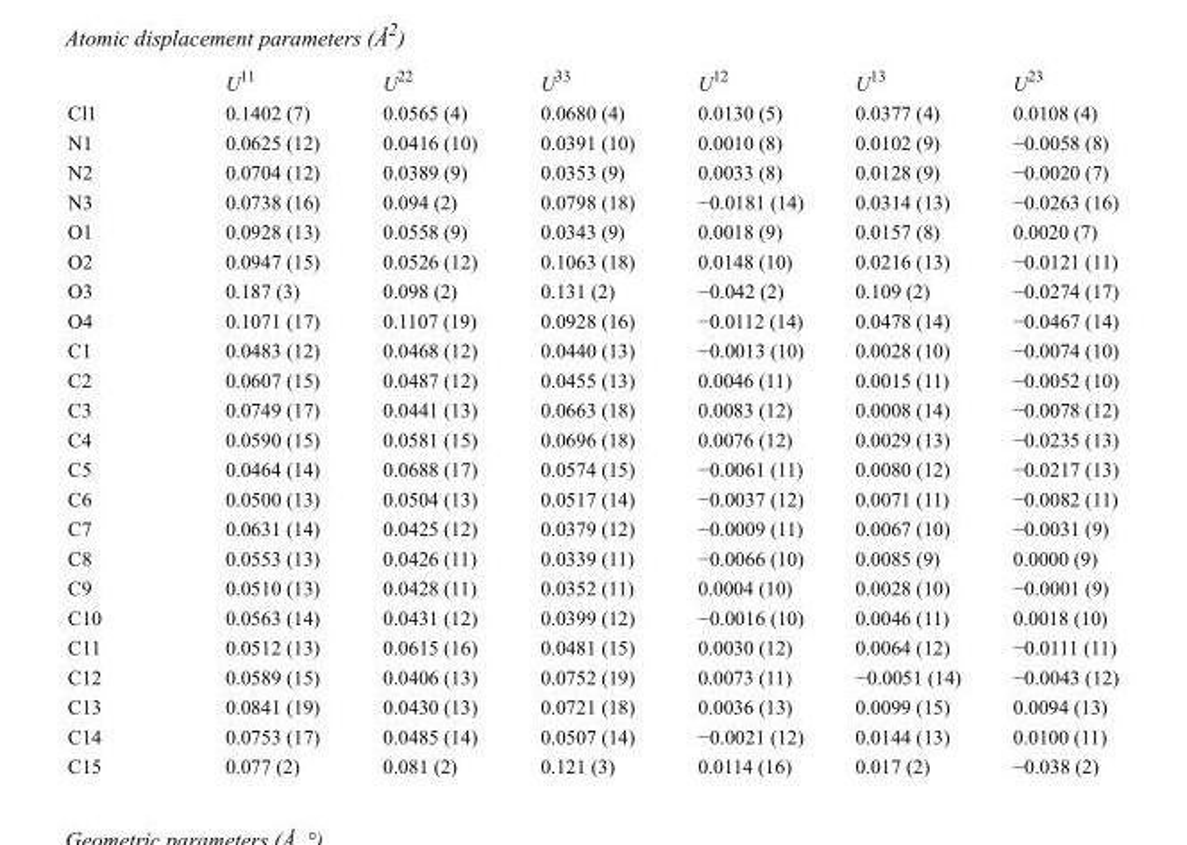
<table><thead><tr><td></td><td>U<sup>11</sup></td><td>U<sup>22</sup></td><td>U<sup>33</sup></td><td>U<sup>12</sup></td><td>U<sup>13</sup></td><td>U<sup>23</sup></td></tr></thead><tbody><tr><td>Cl1</td><td>0.1402 (7)</td><td>0.0565 (4)</td><td>0.0680 (4)</td><td>0.0130 (5)</td><td>0.0377 (4)</td><td>0.0108 (4)</td></tr><tr><td>N1</td><td>0.0625 (12)</td><td>0.0416 (10)</td><td>0.0391 (10)</td><td>0.0010 (8)</td><td>0.0102 (9)</td><td>−0.0058 (8)</td></tr><tr><td>N2</td><td>0.0704 (12)</td><td>0.0389 (9)</td><td>0.0353 (9)</td><td>0.0033 (8)</td><td>0.0128 (9)</td><td>−0.0020 (7)</td></tr><tr><td>N3</td><td>0.0738 (16)</td><td>0.094 (2)</td><td>0.0798 (18)</td><td>−0.0181 (14)</td><td>0.0314 (13)</td><td>−0.0263 (16)</td></tr><tr><td>O1</td><td>0.0928 (13)</td><td>0.0558 (9)</td><td>0.0343 (9)</td><td>0.0018 (9)</td><td>0.0157 (8)</td><td>0.0020 (7)</td></tr><tr><td>O2</td><td>0.0947 (15)</td><td>0.0526 (12)</td><td>0.1063 (18)</td><td>0.0148 (10)</td><td>0.0216 (13)</td><td>−0.0121 (11)</td></tr><tr><td>O3</td><td>0.187 (3)</td><td>0.098 (2)</td><td>0.131 (2)</td><td>−0.042 (2)</td><td>0.109 (2)</td><td>−0.0274 (17)</td></tr><tr><td>O4</td><td>0.1071 (17)</td><td>0.1107 (19)</td><td>0.0928 (16)</td><td>−0.0112 (14)</td><td>0.0478 (14)</td><td>−0.0467 (14)</td></tr><tr><td>C1</td><td>0.0483 (12)</td><td>0.0468 (12)</td><td>0.0440 (13)</td><td>−0.0013 (10)</td><td>0.0028 (10)</td><td>−0.0074 (10)</td></tr><tr><td>C2</td><td>0.0607 (15)</td><td>0.0487 (12)</td><td>0.0455 (13)</td><td>0.0046 (11)</td><td>0.0015 (11)</td><td>−0.0052 (10)</td></tr><tr><td>C3</td><td>0.0749 (17)</td><td>0.0441 (13)</td><td>0.0663 (18)</td><td>0.0083 (12)</td><td>0.0008 (14)</td><td>−0.0078 (12)</td></tr><tr><td>C4</td><td>0.0590 (15)</td><td>0.0581 (15)</td><td>0.0696 (18)</td><td>0.0076 (12)</td><td>0.0029 (13)</td><td>−0.0235 (13)</td></tr><tr><td>C5</td><td>0.0464 (14)</td><td>0.0688 (17)</td><td>0.0574 (15)</td><td>−0.0061 (11)</td><td>0.0080 (12)</td><td>−0.0217 (13)</td></tr><tr><td>C6</td><td>0.0500 (13)</td><td>0.0504 (13)</td><td>0.0517 (14)</td><td>−0.0037 (12)</td><td>0.0071 (11)</td><td>−0.0082 (11)</td></tr><tr><td>C7</td><td>0.0631 (14)</td><td>0.0425 (12)</td><td>0.0379 (12)</td><td>−0.0009 (11)</td><td>0.0067 (10)</td><td>−0.0031 (9)</td></tr><tr><td>C8</td><td>0.0553 (13)</td><td>0.0426 (11)</td><td>0.0339 (11)</td><td>−0.0066 (10)</td><td>0.0085 (9)</td><td>0.0000 (9)</td></tr><tr><td>C9</td><td>0.0510 (13)</td><td>0.0428 (11)</td><td>0.0352 (11)</td><td>0.0004 (10)</td><td>0.0028 (10)</td><td>−0.0001 (9)</td></tr><tr><td>C10</td><td>0.0563 (14)</td><td>0.0431 (12)</td><td>0.0399 (12)</td><td>−0.0016 (10)</td><td>0.0046 (11)</td><td>0.0018 (10)</td></tr><tr><td>C11</td><td>0.0512 (13)</td><td>0.0615 (16)</td><td>0.0481 (15)</td><td>0.0030 (12)</td><td>0.0064 (12)</td><td>−0.0111 (11)</td></tr><tr><td>C12</td><td>0.0589 (15)</td><td>0.0406 (13)</td><td>0.0752 (19)</td><td>0.0073 (11)</td><td>−0.0051 (14)</td><td>−0.0043 (12)</td></tr><tr><td>C13</td><td>0.0841 (19)</td><td>0.0430 (13)</td><td>0.0721 (18)</td><td>0.0036 (13)</td><td>0.0099 (15)</td><td>0.0094 (13)</td></tr><tr><td>C14</td><td>0.0753 (17)</td><td>0.0485 (14)</td><td>0.0507 (14)</td><td>−0.0021 (12)</td><td>0.0144 (13)</td><td>0.0100 (11)</td></tr><tr><td>C15</td><td>0.077 (2)</td><td>0.081 (2)</td><td>0.121 (3)</td><td>0.0114 (16)</td><td>0.017 (2)</td><td>−0.038 (2)</td></tr></tbody></table>